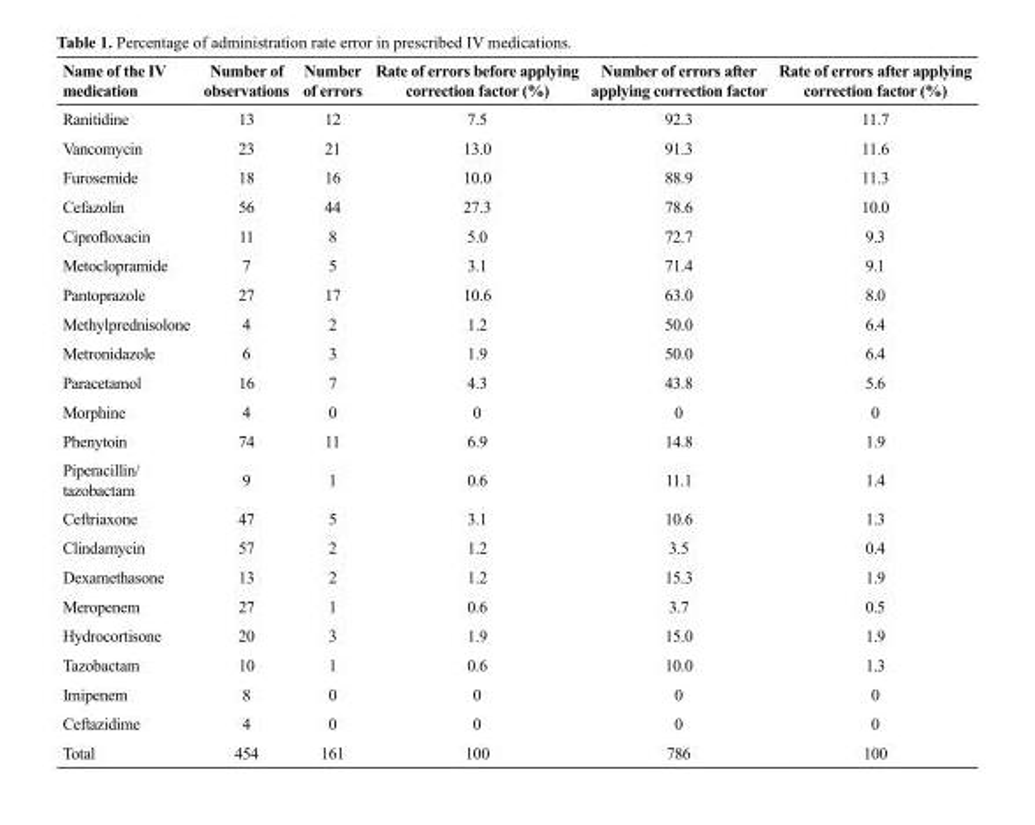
<table><thead><tr><td>Name of the IV medication</td><td>Number of observations</td><td>Number of errors</td><td>Rate of errors before applying correction factor (%)</td><td>Number of errors after applying correction factor</td><td>Rate of errors after applying correction factor (%)</td></tr></thead><tbody><tr><td>Ranitidine</td><td>13</td><td>12</td><td>7.5</td><td>92.3</td><td>11.7</td></tr><tr><td>Vancomycin</td><td>23</td><td>21</td><td>13.0</td><td>91.3</td><td>11.6</td></tr><tr><td>Furosemide</td><td>18</td><td>16</td><td>10.0</td><td>88.9</td><td>11.3</td></tr><tr><td>Cefazolin</td><td>56</td><td>44</td><td>27.3</td><td>78.6</td><td>10.0</td></tr><tr><td>Ciprofloxacin</td><td>11</td><td>8</td><td>5.0</td><td>72.7</td><td>9.3</td></tr><tr><td>Metoclopramide</td><td>7</td><td>5</td><td>3.1</td><td>71.4</td><td>9.1</td></tr><tr><td>Pantoprazole</td><td>27</td><td>17</td><td>10.6</td><td>63.0</td><td>8.0</td></tr><tr><td>Methylprednisolone</td><td>4</td><td>2</td><td>1.2</td><td>50.0</td><td>6.4</td></tr><tr><td>Metronidazole</td><td>6</td><td>3</td><td>1.9</td><td>50.0</td><td>6.4</td></tr><tr><td>Paracetamol</td><td>16</td><td>7</td><td>4.3</td><td>43.8</td><td>5.6</td></tr><tr><td>Morphine</td><td>4</td><td>0</td><td>0</td><td>0</td><td>0</td></tr><tr><td>Phenytoin</td><td>74</td><td>11</td><td>6.9</td><td>14.8</td><td>1.9</td></tr><tr><td>Piperacillin/ tazobactam</td><td>9</td><td>1</td><td>0.6</td><td>11.1</td><td>1.4</td></tr><tr><td>Ceftriaxone</td><td>47</td><td>5</td><td>3.1</td><td>10.6</td><td>1.3</td></tr><tr><td>Clindamycin</td><td>57</td><td>2</td><td>1.2</td><td>3.5</td><td>0.4</td></tr><tr><td>Dexamethasone</td><td>13</td><td>2</td><td>1.2</td><td>15.3</td><td>1.9</td></tr><tr><td>Meropenem</td><td>27</td><td>1</td><td>0.6</td><td>3.7</td><td>0.5</td></tr><tr><td>Hydrocortisone</td><td>20</td><td>3</td><td>1.9</td><td>15.0</td><td>1.9</td></tr><tr><td>Tazobactam</td><td>10</td><td>1</td><td>0.6</td><td>10.0</td><td>1.3</td></tr><tr><td>Imipenem</td><td>8</td><td>0</td><td>0</td><td>0</td><td>0</td></tr><tr><td>Ceftazidime</td><td>4</td><td>0</td><td>0</td><td>0</td><td>0</td></tr><tr><td>Total</td><td>454</td><td>161</td><td>100</td><td>786</td><td>100</td></tr></tbody></table>